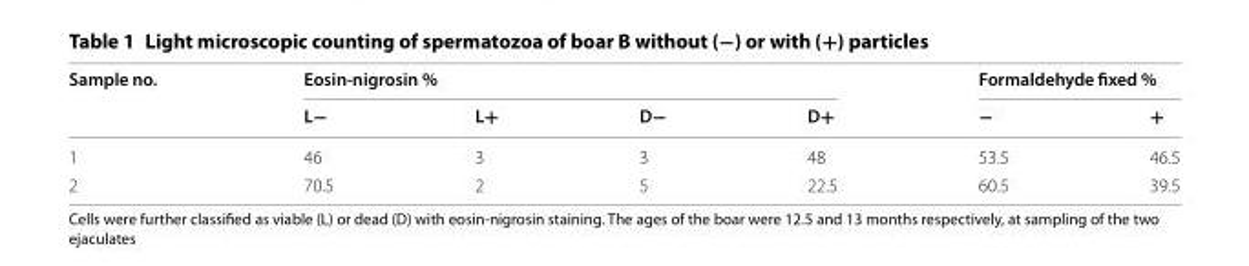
<table><thead><tr><td rowspan="2">Sample no.</td><td colspan="4">Eosin-nigrosin %</td><td colspan="2">Formaldehyde fixed %</td></tr><tr><td>L−</td><td>L+</td><td>D−</td><td>D+</td><td>−</td><td>+</td></tr></thead><tbody><tr><td>1</td><td>46</td><td>3</td><td>3</td><td>48</td><td>53.5</td><td>46.5</td></tr><tr><td>2</td><td>70.5</td><td>2</td><td>5</td><td>22.5</td><td>60.5</td><td>39.5</td></tr></tbody></table>